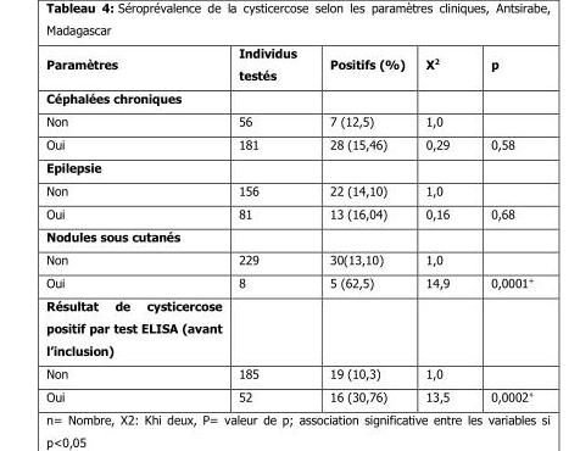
<table><thead><tr><td>Paramètres</td><td>Individus testés</td><td>Positifs (%)</td><td>X2</td><td>p</td></tr></thead><tbody><tr><td colspan="5">Céphalées chroniques</td></tr><tr><td>Non</td><td>56</td><td>7 (12,5)</td><td>1,0</td><td></td></tr><tr><td>Oui</td><td>181</td><td>28 (15,46)</td><td>0,29</td><td>0,58</td></tr><tr><td colspan="5">Epilepsie</td></tr><tr><td>Non</td><td>156</td><td>22 (14,10)</td><td>1,0</td><td></td></tr><tr><td>Oui</td><td>81</td><td>13 (16,04)</td><td>0,16</td><td>0,68</td></tr><tr><td colspan="5">Nodules sous cutanés</td></tr><tr><td>Non</td><td>229</td><td>30(13,10)</td><td>1,0</td><td></td></tr><tr><td>Oui</td><td>8</td><td>5 (62,5)</td><td>14,9</td><td>0,0001<sup>+</sup></td></tr><tr><td colspan="5">Résultat de cysticercose positif par test ELISA (avant l’inclusion)</td></tr><tr><td>Non</td><td>185</td><td>19 (10,3)</td><td>1,0</td><td></td></tr><tr><td>Oui</td><td>52</td><td>16 (30,76)</td><td>13,5</td><td>0,0002<sup>+</sup></td></tr></tbody></table>